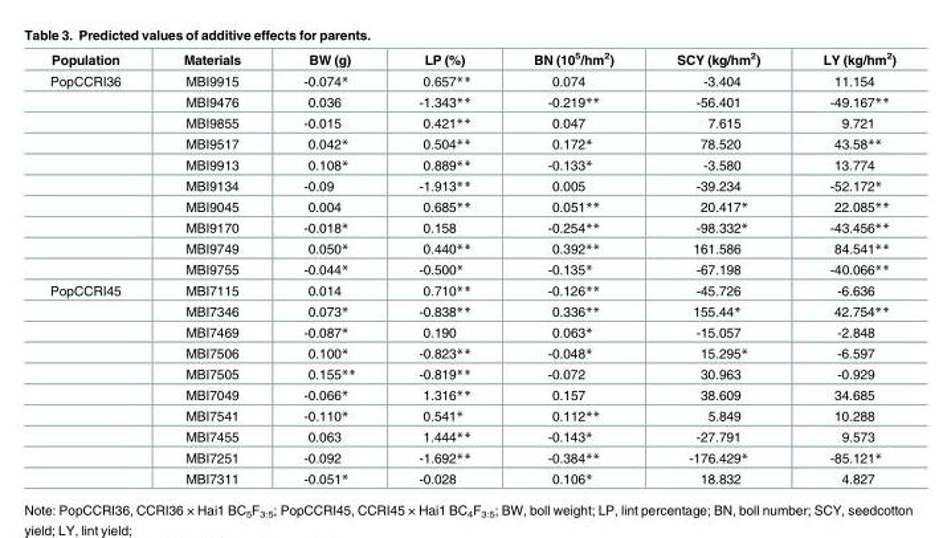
<table><thead><tr><td>Population</td><td>Materials</td><td>BW (g)</td><td>LP (%)</td><td>BN (10<sup>5</sup>/hm<sup>2</sup>)</td><td>SCY (kg/hm<sup>2</sup>)</td><td>LY (kg/hm<sup>2</sup>)</td></tr></thead><tbody><tr><td rowspan="10">PopCCRI36</td><td>MBI9915</td><td>-0.074*</td><td>0.657**</td><td>0.074</td><td>-3.404</td><td>11.154</td></tr><tr><td>MBI9476</td><td>0.036</td><td>-1.343**</td><td>-0.219**</td><td>-56.401</td><td>-49.167**</td></tr><tr><td>MBI9855</td><td>-0.015</td><td>0.421**</td><td>0.047</td><td>7.615</td><td>9.721</td></tr><tr><td>MBI9517</td><td>0.042*</td><td>0.504**</td><td>0.172*</td><td>78.520</td><td>43.58**</td></tr><tr><td>MBI9913</td><td>0.108*</td><td>0.889**</td><td>-0.133*</td><td>-3.580</td><td>13.774</td></tr><tr><td>MBI9134</td><td>-0.09</td><td>-1.913**</td><td>0.005</td><td>-39.234</td><td>-52.172*</td></tr><tr><td>MBI9045</td><td>0.004</td><td>0.685**</td><td>0.051**</td><td>20.417*</td><td>22.085**</td></tr><tr><td>MBI9170</td><td>-0.018*</td><td>0.158</td><td>-0.254**</td><td>-98.332*</td><td>-43.456**</td></tr><tr><td>MBI9749</td><td>0.050*</td><td>0.440**</td><td>0.392**</td><td>161.586</td><td>84.541**</td></tr><tr><td>MBI9755</td><td>-0.044*</td><td>-0.500*</td><td>-0.135*</td><td>-67.198</td><td>-40.066**</td></tr><tr><td rowspan="10">PopCCRI45</td><td>MBI7115</td><td>0.014</td><td>0.710**</td><td>-0.126**</td><td>-45.726</td><td>-6.636</td></tr><tr><td>MBI7346</td><td>0.073*</td><td>-0.838**</td><td>0.336**</td><td>155.44*</td><td>42.754**</td></tr><tr><td>MBI7469</td><td>-0.087*</td><td>0.190</td><td>0.063*</td><td>-15.057</td><td>-2.848</td></tr><tr><td>MBI7506</td><td>0.100*</td><td>-0.823**</td><td>-0.048*</td><td>15.295*</td><td>-6.597</td></tr><tr><td>MBI7505</td><td>0.155**</td><td>-0.819**</td><td>-0.072</td><td>30.963</td><td>-0.929</td></tr><tr><td>MBI7049</td><td>-0.066*</td><td>1.316**</td><td>0.157</td><td>38.609</td><td>34.685</td></tr><tr><td>MBI7541</td><td>-0.110*</td><td>0.541*</td><td>0.112**</td><td>5.849</td><td>10.288</td></tr><tr><td>MBI7455</td><td>0.063</td><td>1.444**</td><td>-0.143*</td><td>-27.791</td><td>9.573</td></tr><tr><td>MBI7251</td><td>-0.092</td><td>-1.692**</td><td>-0.384**</td><td>-176.429*</td><td>-85.121*</td></tr><tr><td>MBI7311</td><td>-0.051*</td><td>-0.028</td><td>0.106*</td><td>18.832</td><td>4.827</td></tr></tbody></table>